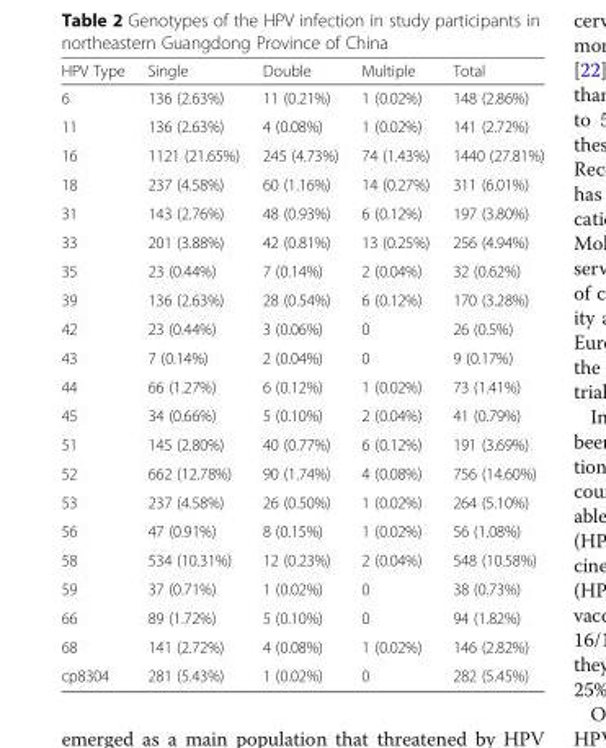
<table><thead><tr><td>HPV Type</td><td>Single</td><td>Double</td><td>Multiple</td><td>Total</td></tr></thead><tbody><tr><td>6</td><td>136 (2.63%)</td><td>11 (0.21%)</td><td>1 (0.02%)</td><td>148 (2.86%)</td></tr><tr><td>11</td><td>136 (2.63%)</td><td>4 (0.08%)</td><td>1 (0.02%)</td><td>141 (2.72%)</td></tr><tr><td>16</td><td>1121 (21.65%)</td><td>245 (4.73%)</td><td>74 (1.43%)</td><td>1440 (27.81%)</td></tr><tr><td>18</td><td>237 (4.58%)</td><td>60 (1.16%)</td><td>14 (0.27%)</td><td>311 (6.01%)</td></tr><tr><td>31</td><td>143 (2.76%)</td><td>48 (0.93%)</td><td>6 (0.12%)</td><td>197 (3.80%)</td></tr><tr><td>33</td><td>201 (3.88%)</td><td>42 (0.81%)</td><td>13 (0.25%)</td><td>256 (4.94%)</td></tr><tr><td>35</td><td>23 (0.44%)</td><td>7 (0.14%)</td><td>2 (0.04%)</td><td>32 (0.62%)</td></tr><tr><td>39</td><td>136 (2.63%)</td><td>28 (0.54%)</td><td>6 (0.12%)</td><td>170 (3.28%)</td></tr><tr><td>42</td><td>23 (0.44%)</td><td>3 (0.06%)</td><td>0</td><td>26 (0.5%)</td></tr><tr><td>43</td><td>7 (0.14%)</td><td>2 (0.04%)</td><td>0</td><td>9 (0.17%)</td></tr><tr><td>44</td><td>66 (1.27%)</td><td>6 (0.12%)</td><td>1 (0.02%)</td><td>73 (1.41%)</td></tr><tr><td>45</td><td>34 (0.66%)</td><td>5 (0.10%)</td><td>2 (0.04%)</td><td>41 (0.79%)</td></tr><tr><td>51</td><td>145 (2.80%)</td><td>40 (0.77%)</td><td>6 (0.12%)</td><td>191 (3.69%)</td></tr><tr><td>52</td><td>662 (12.78%)</td><td>90 (1.74%)</td><td>4 (0.08%)</td><td>756 (14.60%)</td></tr><tr><td>53</td><td>237 (4.58%)</td><td>26 (0.50%)</td><td>1 (0.02%)</td><td>264 (5.10%)</td></tr><tr><td>56</td><td>47 (0.91%)</td><td>8 (0.15%)</td><td>1 (0.02%)</td><td>56 (1.08%)</td></tr><tr><td>58</td><td>534 (10.31%)</td><td>12 (0.23%)</td><td>2 (0.04%)</td><td>548 (10.58%)</td></tr><tr><td>59</td><td>37 (0.71%)</td><td>1 (0.02%)</td><td>0</td><td>38 (0.73%)</td></tr><tr><td>66</td><td>89 (1.72%)</td><td>5 (0.10%)</td><td>0</td><td>94 (1.82%)</td></tr><tr><td>68</td><td>141 (2.72%)</td><td>4 (0.08%)</td><td>1 (0.02%)</td><td>146 (2.82%)</td></tr><tr><td>cp8304</td><td>281 (5.43%)</td><td>1 (0.02%)</td><td>0</td><td>282 (5.45%)</td></tr></tbody></table>